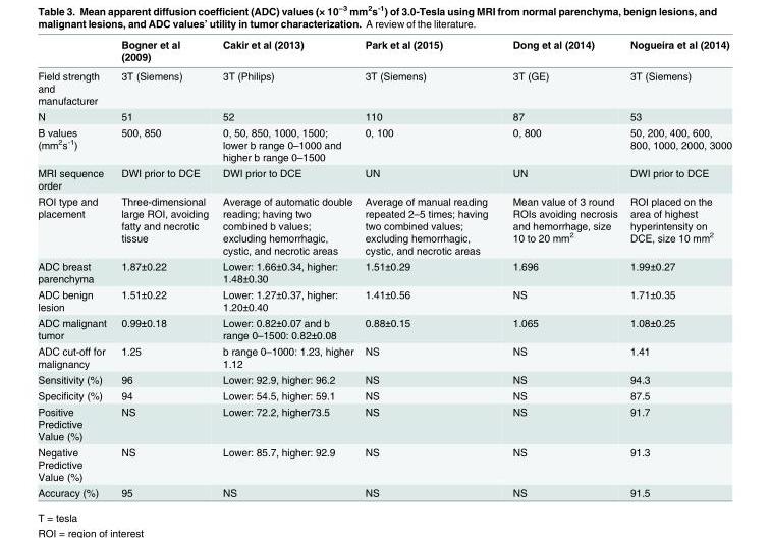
<table><thead><tr><td></td><td>Bogner et al (2009)</td><td>Cakir et al (2013)</td><td>Park et al (2015)</td><td>Dong et al (2014)</td><td>Nogueira et al (2014)</td></tr></thead><tbody><tr><td>Field strength and manufacturer</td><td>3T (Siemens)</td><td>3T (Philips)</td><td>3T (Siemens)</td><td>3T (GE)</td><td>3T (Siemens)</td></tr><tr><td>N</td><td>51</td><td>52</td><td>110</td><td>87</td><td>53</td></tr><tr><td>B values (mm<sup>2</sup>s<sup>-1</sup>)</td><td>500, 850</td><td>0, 50, 850, 1000, 1500; lower b range 0–1000 and higher b range 0–1500</td><td>0, 100</td><td>0, 800</td><td>50, 200, 400, 600, 800, 1000, 2000, 3000</td></tr><tr><td>MRI sequence order</td><td>DWI prior to DCE</td><td>DWI prior to DCE</td><td>UN</td><td>UN</td><td>DWI prior to DCE</td></tr><tr><td>ROI type and placement</td><td>Three-dimensional large ROI, avoiding fatty and necrotic tissue</td><td>Average of automatic double reading; having two combined b values; excluding hemorrhagic, cystic, and necrotic areas</td><td>Average of manual reading repeated 2–5 times; having two combined values; excluding hemorrhagic, cystic, and necrotic areas</td><td>Mean value of 3 round ROIs avoiding necrosis and hemorrhage, size 10 to 20 mm<sup>2</sup></td><td>ROI placed on the area of highest hyperintensity on DCE, size 10 mm<sup>2</sup></td></tr><tr><td>ADC breast parenchyma</td><td>1.87±0.22</td><td>Lower: 1.66±0.34, higher: 1.48±0.30</td><td>1.51±0.29</td><td>1.696</td><td>1.99±0.27</td></tr><tr><td>ADC benign lesion</td><td>1.51±0.22</td><td>Lower: 1.27±0.37, higher: 1.20±0.40</td><td>1.41±0.56</td><td>NS</td><td>1.71±0.35</td></tr><tr><td>ADC malignant tumor</td><td>0.99±0.18</td><td>Lower: 0.82±0.07 and b range 0–1500: 0.82±0.08</td><td>0.88±0.15</td><td>1.065</td><td>1.08±0.25</td></tr><tr><td>ADC cut-off for malignancy</td><td>1.25</td><td>b range 0–1000: 1.23, higher 1.12</td><td>NS</td><td>NS</td><td>1.41</td></tr><tr><td>Sensitivity (%)</td><td>96</td><td>Lower: 92.9, higher: 96.2</td><td>NS</td><td>NS</td><td>94.3</td></tr><tr><td>Specificity (%)</td><td>94</td><td>Lower: 54.5, higher: 59.1</td><td>NS</td><td>NS</td><td>87.5</td></tr><tr><td>Positive Predictive Value (%)</td><td>NS</td><td>Lower: 72.2, higher73.5</td><td>NS</td><td>NS</td><td>91.7</td></tr><tr><td>Negative Predictive Value (%)</td><td>NS</td><td>Lower: 85.7, higher: 92.9</td><td>NS</td><td>NS</td><td>91.3</td></tr><tr><td>Accuracy (%)</td><td>95</td><td>NS</td><td>NS</td><td>NS</td><td>91.5</td></tr></tbody></table>